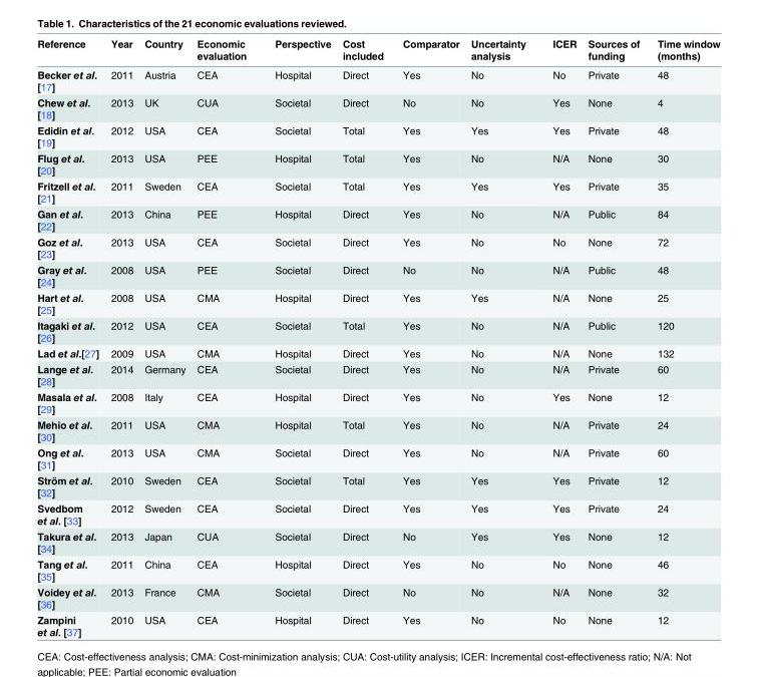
<table><thead><tr><td>Reference</td><td>Year</td><td>Country</td><td>Economic evaluation</td><td>Perspective</td><td>Cost included</td><td>Comparator</td><td>Uncertainty analysis</td><td>ICER</td><td>Sources of funding</td><td>Time window (months)</td></tr></thead><tbody><tr><td>Becker et al. [17]</td><td>2011</td><td>Austria</td><td>CEA</td><td>Hospital</td><td>Direct</td><td>Yes</td><td>No</td><td>No</td><td>Private</td><td>48</td></tr><tr><td>Chew et al. [18]</td><td>2013</td><td>UK</td><td>CUA</td><td>Societal</td><td>Direct</td><td>No</td><td>No</td><td>Yes</td><td>None</td><td>4</td></tr><tr><td>Edidin et al. [19]</td><td>2012</td><td>USA</td><td>CEA</td><td>Societal</td><td>Total</td><td>Yes</td><td>Yes</td><td>Yes</td><td>Private</td><td>48</td></tr><tr><td>Flug et al. [20]</td><td>2013</td><td>USA</td><td>PEE</td><td>Hospital</td><td>Total</td><td>Yes</td><td>No</td><td>N/A</td><td>None</td><td>30</td></tr><tr><td>Fritzell et al. [21]</td><td>2011</td><td>Sweden</td><td>CEA</td><td>Societal</td><td>Total</td><td>Yes</td><td>Yes</td><td>Yes</td><td>Private</td><td>35</td></tr><tr><td>Gan et al. [22]</td><td>2013</td><td>China</td><td>PEE</td><td>Hospital</td><td>Direct</td><td>Yes</td><td>No</td><td>N/A</td><td>Public</td><td>84</td></tr><tr><td>Goz et al. [23]</td><td>2013</td><td>USA</td><td>CEA</td><td>Societal</td><td>Direct</td><td>Yes</td><td>No</td><td>No</td><td>None</td><td>72</td></tr><tr><td>Gray et al. [24]</td><td>2008</td><td>USA</td><td>PEE</td><td>Societal</td><td>Direct</td><td>No</td><td>No</td><td>N/A</td><td>Public</td><td>48</td></tr><tr><td>Hart et al. [25]</td><td>2008</td><td>USA</td><td>CMA</td><td>Hospital</td><td>Direct</td><td>Yes</td><td>Yes</td><td>N/A</td><td>None</td><td>25</td></tr><tr><td>Itagaki et al. [26]</td><td>2012</td><td>USA</td><td>CEA</td><td>Societal</td><td>Total</td><td>Yes</td><td>No</td><td>N/A</td><td>Public</td><td>120</td></tr><tr><td>Lad et al.[27]</td><td>2009</td><td>USA</td><td>CMA</td><td>Hospital</td><td>Direct</td><td>Yes</td><td>No</td><td>N/A</td><td>None</td><td>132</td></tr><tr><td>Lange et al. [28]</td><td>2014</td><td>Germany</td><td>CEA</td><td>Societal</td><td>Direct</td><td>Yes</td><td>No</td><td>N/A</td><td>Private</td><td>60</td></tr><tr><td>Masala et al. [29]</td><td>2008</td><td>Italy</td><td>CEA</td><td>Hospital</td><td>Direct</td><td>Yes</td><td>No</td><td>Yes</td><td>None</td><td>12</td></tr><tr><td>Mehio et al. [30]</td><td>2011</td><td>USA</td><td>CMA</td><td>Hospital</td><td>Total</td><td>Yes</td><td>No</td><td>N/A</td><td>Private</td><td>24</td></tr><tr><td>Ong et al. [31]</td><td>2013</td><td>USA</td><td>CMA</td><td>Societal</td><td>Direct</td><td>Yes</td><td>No</td><td>N/A</td><td>Private</td><td>60</td></tr><tr><td>Ström et al. [32]</td><td>2010</td><td>Sweden</td><td>CEA</td><td>Societal</td><td>Total</td><td>Yes</td><td>Yes</td><td>Yes</td><td>Private</td><td>12</td></tr><tr><td>Svedbom et al. [33]</td><td>2012</td><td>Sweden</td><td>CEA</td><td>Societal</td><td>Direct</td><td>Yes</td><td>Yes</td><td>Yes</td><td>Private</td><td>24</td></tr><tr><td>Takura et al. [34]</td><td>2013</td><td>Japan</td><td>CUA</td><td>Societal</td><td>Direct</td><td>No</td><td>Yes</td><td>Yes</td><td>None</td><td>12</td></tr><tr><td>Tang et al. [35]</td><td>2011</td><td>China</td><td>CEA</td><td>Hospital</td><td>Direct</td><td>Yes</td><td>No</td><td>No</td><td>None</td><td>46</td></tr><tr><td>Voidey et al. [36]</td><td>2013</td><td>France</td><td>CMA</td><td>Societal</td><td>Direct</td><td>No</td><td>No</td><td>N/A</td><td>None</td><td>32</td></tr><tr><td>Zampini et al. [37]</td><td>2010</td><td>USA</td><td>CEA</td><td>Hospital</td><td>Direct</td><td>Yes</td><td>No</td><td>No</td><td>None</td><td>12</td></tr></tbody></table>